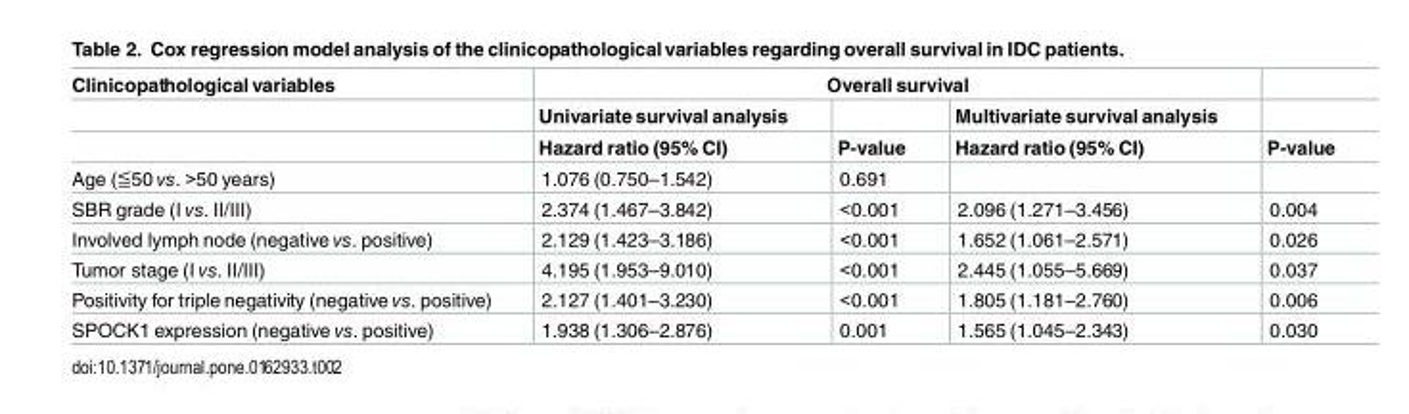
<table><thead><tr><td rowspan="3">Clinicopathological variables</td><td colspan="3">Overall survival</td><td rowspan="3">P-value</td></tr><tr><td rowspan="2">Univariate survival analysis Hazard ratio (95% CI)</td><td rowspan="2">P-value</td><td rowspan="2">Multivariate survival analysis Hazard ratio (95% CI)</td></tr><tr></tr></thead><tbody><tr><td>Age (≦50 vs. &gt;50 years)</td><td>1.076 (0.750–1.542)</td><td>0.691</td><td></td><td></td></tr><tr><td>SBR grade (I vs. II/III)</td><td>2.374 (1.467–3.842)</td><td>&lt;0.001</td><td>2.096 (1.271–3.456)</td><td>0.004</td></tr><tr><td>Involved lymph node (negative vs. positive)</td><td>2.129 (1.423–3.186)</td><td>&lt;0.001</td><td>1.652 (1.061–2.571)</td><td>0.026</td></tr><tr><td>Tumor stage (I vs. II/III)</td><td>4.195 (1.953–9.010)</td><td>&lt;0.001</td><td>2.445 (1.055–5.669)</td><td>0.037</td></tr><tr><td>Positivity for triple negativity (negative vs. positive)</td><td>2.127 (1.401–3.230)</td><td>&lt;0.001</td><td>1.805 (1.181–2.760)</td><td>0.006</td></tr><tr><td>SPOCK1 expression (negative vs. positive)</td><td>1.938 (1.306–2.876)</td><td>0.001</td><td>1.565 (1.045–2.343)</td><td>0.030</td></tr></tbody></table>